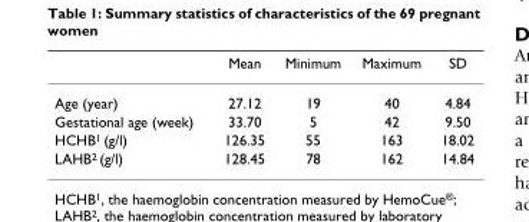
<table><thead><tr><td></td><td>Mean</td><td>Minimum</td><td>Maximum</td><td>SD</td></tr></thead><tbody><tr><td>Age (year)</td><td>27.12</td><td>19</td><td>40</td><td>4.84</td></tr><tr><td>Gestational age (week)</td><td>33.70</td><td>5</td><td>42</td><td>9.50</td></tr><tr><td>HCHB<sup>1</sup> (g/l)</td><td>126.35</td><td>55</td><td>163</td><td>18.02</td></tr><tr><td>LAHB<sup>2</sup> (g/l)</td><td>128.45</td><td>78</td><td>162</td><td>14.84</td></tr></tbody></table>